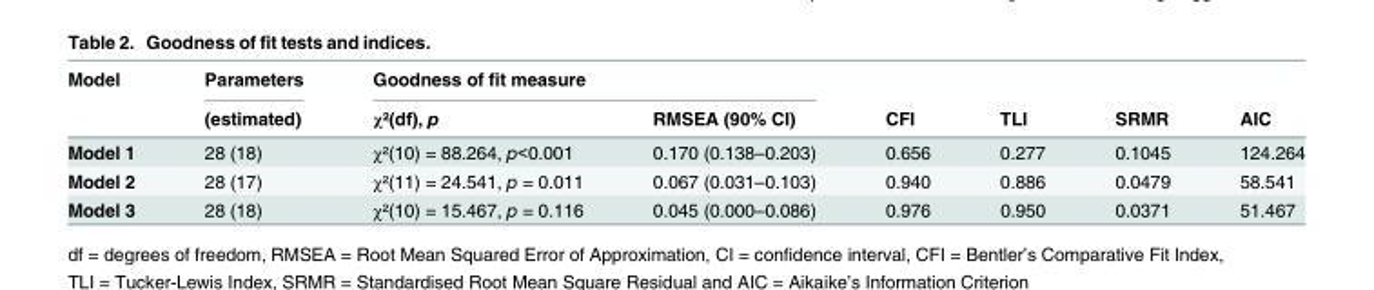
<table><thead><tr><td rowspan="2">Model</td><td rowspan="2">Parameters (estimated)</td><td colspan="2">Goodness of fit measure</td><td rowspan="2">CFI</td><td rowspan="2">TLI</td><td rowspan="2">SRMR</td><td rowspan="2">AIC</td></tr><tr><td>χ²(df), p</td><td>RMSEA (90% CI)</td></tr></thead><tbody><tr><td>Model 1</td><td>28 (18)</td><td>χ²(10) = 88.264, p&lt;0.001</td><td>0.170 (0.138–0.203)</td><td>0.656</td><td>0.277</td><td>0.1045</td><td>124.264</td></tr><tr><td>Model 2</td><td>28 (17)</td><td>χ²(11) = 24.541, p = 0.011</td><td>0.067 (0.031–0.103)</td><td>0.940</td><td>0.886</td><td>0.0479</td><td>58.541</td></tr><tr><td>Model 3</td><td>28 (18)</td><td>χ²(10) = 15.467, p = 0.116</td><td>0.045 (0.000–0.086)</td><td>0.976</td><td>0.950</td><td>0.0371</td><td>51.467</td></tr></tbody></table>